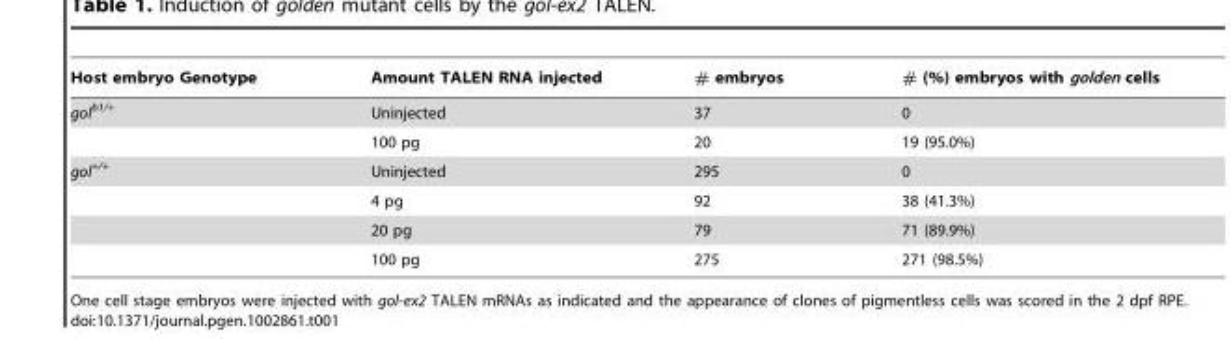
<table><thead><tr><td>Host embryo Genotype</td><td>Amount TALEN RNA injected</td><td># embryos</td><td># (%) embryos with golden cells</td></tr></thead><tbody><tr><td rowspan="2">gol<sup>b1/+</sup></td><td>Uninjected</td><td>37</td><td>0</td></tr><tr><td>100 pg</td><td>20</td><td>19 (95.0%)</td></tr><tr><td rowspan="4">gol<sup>+/+</sup></td><td>Uninjected</td><td>295</td><td>0</td></tr><tr><td>4 pg</td><td>92</td><td>38 (41.3%)</td></tr><tr><td>20 pg</td><td>79</td><td>71 (89.9%)</td></tr><tr><td>100 pg</td><td>275</td><td>271 (98.5%)</td></tr></tbody></table>